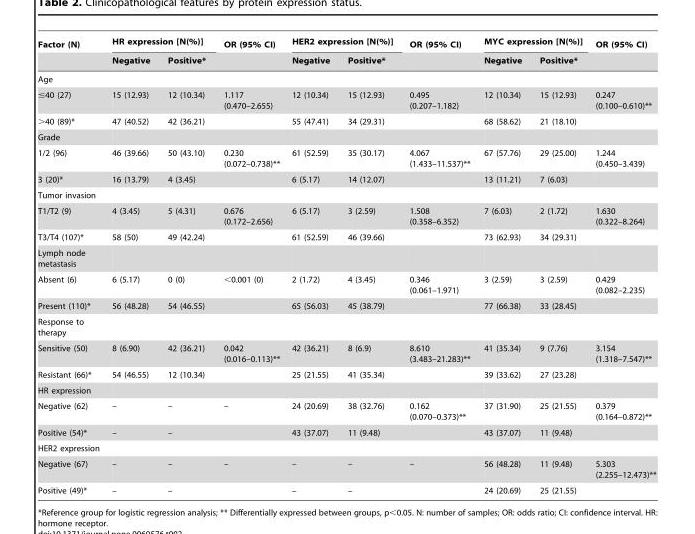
<table><thead><tr><td rowspan="2">Factor (N)</td><td colspan="2">HR expression [N(%)]</td><td rowspan="2">OR (95% CI)</td><td colspan="2">HER2 expression [N(%)]</td><td rowspan="2">OR (95% CI)</td><td colspan="2">MYC expression [N(%)]</td><td rowspan="2">OR (95% CI)</td></tr><tr><td>Negative</td><td>Positive*</td><td>Negative</td><td>Positive*</td><td>Negative</td><td>Positive*</td></tr></thead><tbody><tr><td colspan="10">Age</td></tr><tr><td>≤40 (27)</td><td>15 (12.93)</td><td>12 (10.34)</td><td>1.117 (0.470–2.655)</td><td>12 (10.34)</td><td>15 (12.93)</td><td>0.495 (0.207–1.182)</td><td>12 (10.34)</td><td>15 (12.93)</td><td>0.247 (0.100–0.610)**</td></tr><tr><td>&gt;40 (89)*</td><td>47 (40.52)</td><td>42 (36.21)</td><td></td><td>55 (47.41)</td><td>34 (29.31)</td><td></td><td>68 (58.62)</td><td>21 (18.10)</td><td></td></tr><tr><td colspan="10">Grade</td></tr><tr><td>1/2 (96)</td><td>46 (39.66)</td><td>50 (43.10)</td><td>0.230 (0.072–0.738)**</td><td>61 (52.59)</td><td>35 (30.17)</td><td>4.067 (1.433–11.537)**</td><td>67 (57.76)</td><td>29 (25.00)</td><td>1.244 (0.450–3.439)</td></tr><tr><td>3 (20)*</td><td>16 (13.79)</td><td>4 (3.45)</td><td></td><td>6 (5.17)</td><td>14 (12.07)</td><td></td><td>13 (11.21)</td><td>7 (6.03)</td><td></td></tr><tr><td colspan="10">Tumor invasion</td></tr><tr><td>T1/T2 (9)</td><td>4 (3.45)</td><td>5 (4.31)</td><td>0.676 (0.172–2.656)</td><td>6 (5.17)</td><td>3 (2.59)</td><td>1.508 (0.358–6.352)</td><td>7 (6.03)</td><td>2 (1.72)</td><td>1.630 (0.322–8.264)</td></tr><tr><td>T3/T4 (107)*</td><td>58 (50)</td><td>49 (42.24)</td><td></td><td>61 (52.59)</td><td>46 (39.66)</td><td></td><td>73 (62.93)</td><td>34 (29.31)</td><td></td></tr><tr><td colspan="10">Lymph node metastasis</td></tr><tr><td>Absent (6)</td><td>6 (5.17)</td><td>0 (0)</td><td>&lt;0.001 (0)</td><td>2 (1.72)</td><td>4 (3.45)</td><td>0.346 (0.061–1.971)</td><td>3 (2.59)</td><td>3 (2.59)</td><td>0.429 (0.082–2.235)</td></tr><tr><td>Present (110)*</td><td>56 (48.28)</td><td>54 (46.55)</td><td></td><td>65 (56.03)</td><td>45 (38.79)</td><td></td><td>77 (66.38)</td><td>33 (28.45)</td><td></td></tr><tr><td colspan="10">Response to therapy</td></tr><tr><td>Sensitive (50)</td><td>8 (6.90)</td><td>42 (36.21)</td><td>0.042 (0.016–0.113)**</td><td>42 (36.21)</td><td>8 (6.9)</td><td>8.610 (3.483–21.283)**</td><td>41 (35.34)</td><td>9 (7.76)</td><td>3.154 (1.318–7.547)**</td></tr><tr><td>Resistant (66)*</td><td>54 (46.55)</td><td>12 (10.34)</td><td></td><td>25 (21.55)</td><td>41 (35.34)</td><td></td><td>39 (33.62)</td><td>27 (23.28)</td><td></td></tr><tr><td colspan="10">HR expression</td></tr><tr><td>Negative (62)</td><td>–</td><td>–</td><td>–</td><td>24 (20.69)</td><td>38 (32.76)</td><td>0.162 (0.070–0.373)**</td><td>37 (31.90)</td><td>25 (21.55)</td><td>0.379 (0.164–0.872)**</td></tr><tr><td>Positive (54)*</td><td>–</td><td>–</td><td></td><td>43 (37.07)</td><td>11 (9.48)</td><td></td><td>43 (37.07)</td><td>11 (9.48)</td><td></td></tr><tr><td colspan="10">HER2 expression</td></tr><tr><td>Negative (67)</td><td>–</td><td>–</td><td>–</td><td>–</td><td>–</td><td>–</td><td>56 (48.28)</td><td>11 (9.48)</td><td>5.303 (2.255–12.473)**</td></tr><tr><td>Positive (49)*</td><td>–</td><td>–</td><td></td><td>–</td><td>–</td><td></td><td>24 (20.69)</td><td>25 (21.55)</td><td></td></tr></tbody></table>